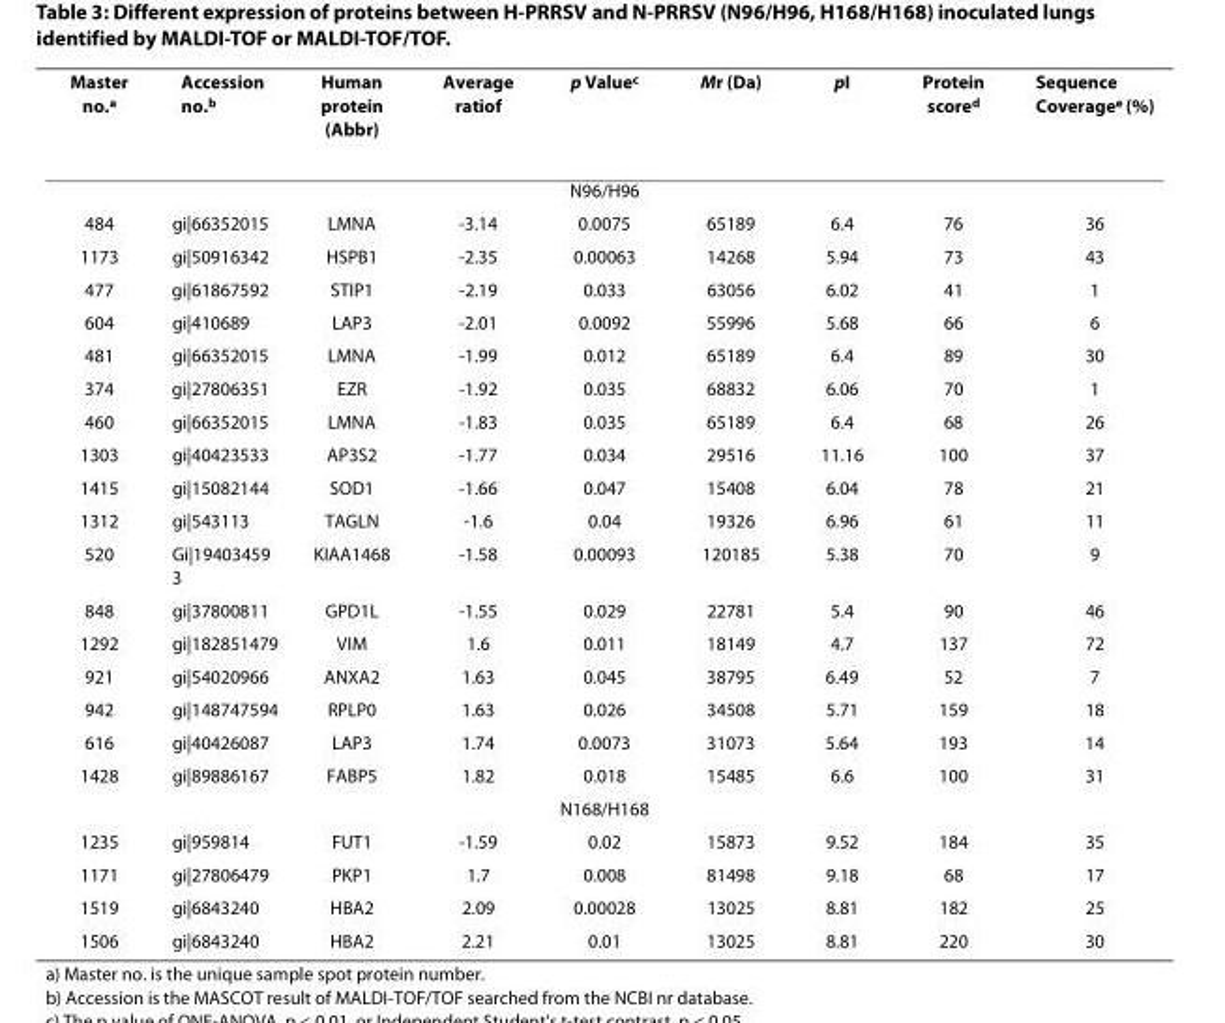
<table><thead><tr><td>Master no.<sup>a</sup></td><td>Accession no.<sup>b</sup></td><td>Human protein (Abbr)</td><td>Average ratio<sup>f</sup></td><td>p Value<sup>c</sup></td><td>Mr (Da)</td><td>pI</td><td>Protein score<sup>d</sup></td><td>Sequence Coverage<sup>e</sup> (%)</td></tr></thead><tbody><tr><td colspan="9">N96/H96</td></tr><tr><td>484</td><td>gi|66352015</td><td>LMNA</td><td>-3.14</td><td>0.0075</td><td>65189</td><td>6.4</td><td>76</td><td>36</td></tr><tr><td>1173</td><td>gi|50916342</td><td>HSPB1</td><td>-2.35</td><td>0.00063</td><td>14268</td><td>5.94</td><td>73</td><td>43</td></tr><tr><td>477</td><td>gi|61867592</td><td>STIP1</td><td>-2.19</td><td>0.033</td><td>63056</td><td>6.02</td><td>41</td><td>1</td></tr><tr><td>604</td><td>gi|410689</td><td>LAP3</td><td>-2.01</td><td>0.0092</td><td>55996</td><td>5.68</td><td>66</td><td>6</td></tr><tr><td>481</td><td>gi|66352015</td><td>LMNA</td><td>-1.99</td><td>0.012</td><td>65189</td><td>6.4</td><td>89</td><td>30</td></tr><tr><td>374</td><td>gi|27806351</td><td>EZR</td><td>-1.92</td><td>0.035</td><td>68832</td><td>6.06</td><td>70</td><td>1</td></tr><tr><td>460</td><td>gi|66352015</td><td>LMNA</td><td>-1.83</td><td>0.035</td><td>65189</td><td>6.4</td><td>68</td><td>26</td></tr><tr><td>1303</td><td>gi|40423533</td><td>AP3S2</td><td>-1.77</td><td>0.034</td><td>29516</td><td>11.16</td><td>100</td><td>37</td></tr><tr><td>1415</td><td>gi|15082144</td><td>SOD1</td><td>-1.66</td><td>0.047</td><td>15408</td><td>6.04</td><td>78</td><td>21</td></tr><tr><td>1312</td><td>gi|543113</td><td>TAGLN</td><td>-1.6</td><td>0.04</td><td>19326</td><td>6.96</td><td>61</td><td>11</td></tr><tr><td>520</td><td>Gi|19403459 3</td><td>KIAA1468</td><td>-1.58</td><td>0.00093</td><td>120185</td><td>5.38</td><td>70</td><td>9</td></tr><tr><td>848</td><td>gi|37800811</td><td>GPD1L</td><td>-1.55</td><td>0.029</td><td>22781</td><td>5.4</td><td>90</td><td>46</td></tr><tr><td>1292</td><td>gi|182851479</td><td>VIM</td><td>1.6</td><td>0.011</td><td>18149</td><td>4.7</td><td>137</td><td>72</td></tr><tr><td>921</td><td>gi|54020966</td><td>ANXA2</td><td>1.63</td><td>0.045</td><td>38795</td><td>6.49</td><td>52</td><td>7</td></tr><tr><td>942</td><td>gi|148747594</td><td>RPLP0</td><td>1.63</td><td>0.026</td><td>34508</td><td>5.71</td><td>159</td><td>18</td></tr><tr><td>616</td><td>gi|40426087</td><td>LAP3</td><td>1.74</td><td>0.0073</td><td>31073</td><td>5.64</td><td>193</td><td>14</td></tr><tr><td>1428</td><td>gi|89886167</td><td>FABP5</td><td>1.82</td><td>0.018</td><td>15485</td><td>6.6</td><td>100</td><td>31</td></tr><tr><td colspan="9">N168/H168</td></tr><tr><td>1235</td><td>gi|959814</td><td>FUT1</td><td>-1.59</td><td>0.02</td><td>15873</td><td>9.52</td><td>184</td><td>35</td></tr><tr><td>1171</td><td>gi|27806479</td><td>PKP1</td><td>1.7</td><td>0.008</td><td>81498</td><td>9.18</td><td>68</td><td>17</td></tr><tr><td>1519</td><td>gi|6843240</td><td>HBA2</td><td>2.09</td><td>0.00028</td><td>13025</td><td>8.81</td><td>182</td><td>25</td></tr><tr><td>1506</td><td>gi|6843240</td><td>HBA2</td><td>2.21</td><td>0.01</td><td>13025</td><td>8.81</td><td>220</td><td>30</td></tr></tbody></table>